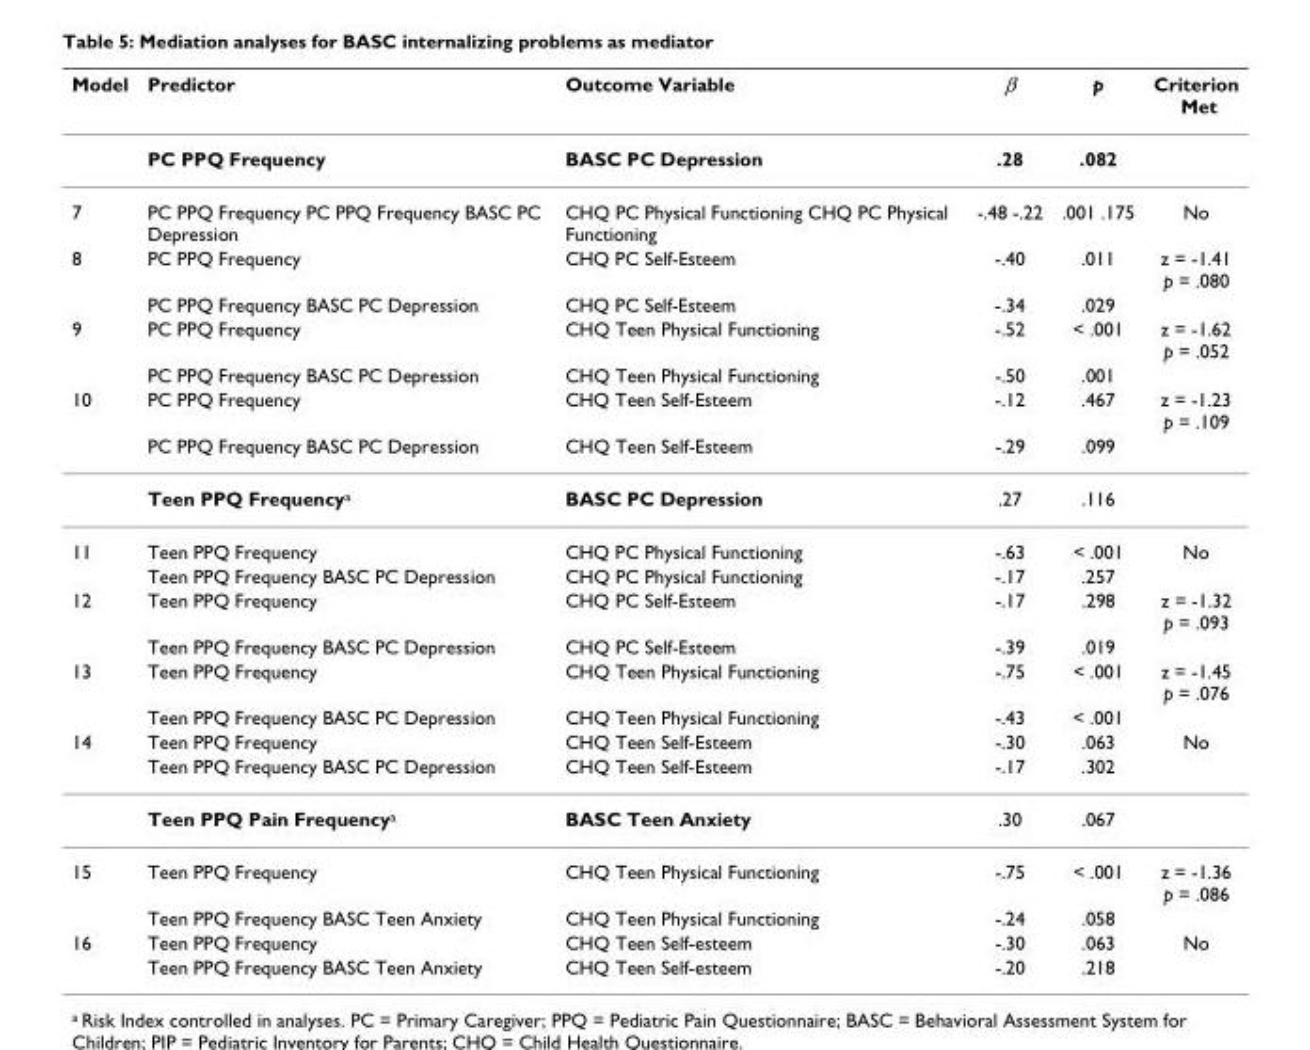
<table><thead><tr><td>Model</td><td>Predictor</td><td>Outcome Variable</td><td>β</td><td>p</td><td>Criterion Met</td></tr></thead><tbody><tr><td></td><td>PC PPQ Frequency</td><td>BASC PC Depression</td><td>.28</td><td>.082</td><td></td></tr><tr><td>7</td><td>PC PPQ Frequency PC PPQ Frequency BASC PC Depression</td><td>CHQ PC Physical Functioning CHQ PC Physical Functioning</td><td>-.48 -.22</td><td>.001 .175</td><td>No</td></tr><tr><td rowspan="2">8</td><td>PC PPQ Frequency</td><td>CHQ PC Self-Esteem</td><td>-.40</td><td>.011</td><td>z = -1.41 p = .080</td></tr><tr><td>PC PPQ Frequency BASC PC Depression</td><td>CHQ PC Self-Esteem</td><td>-.34</td><td>.029</td><td></td></tr><tr><td rowspan="2">9</td><td>PC PPQ Frequency</td><td>CHQ Teen Physical Functioning</td><td>-.52</td><td>&lt; .001</td><td>z = -1.62 p = .052</td></tr><tr><td>PC PPQ Frequency BASC PC Depression</td><td>CHQ Teen Physical Functioning</td><td>-.50</td><td>.001</td><td></td></tr><tr><td rowspan="3">10</td><td>PC PPQ Frequency</td><td>CHQ Teen Self-Esteem</td><td>-.12</td><td>.467</td><td>z = -1.23 p = .109</td></tr><tr><td>PC PPQ Frequency BASC PC Depression</td><td>CHQ Teen Self-Esteem</td><td>-.29</td><td>.099</td><td></td></tr><tr><td>Teen PPQ Frequency<sup>a</sup></td><td>BASC PC Depression</td><td>.27</td><td>.116</td><td></td></tr><tr><td rowspan="2">11</td><td>Teen PPQ Frequency</td><td>CHQ PC Physical Functioning</td><td>-.63</td><td>&lt; .001</td><td>No</td></tr><tr><td>Teen PPQ Frequency BASC PC Depression</td><td>CHQ PC Physical Functioning</td><td>-.17</td><td>.257</td><td></td></tr><tr><td rowspan="2">12</td><td>Teen PPQ Frequency</td><td>CHQ PC Self-Esteem</td><td>-.17</td><td>.298</td><td>z = -1.32 p = .093</td></tr><tr><td>Teen PPQ Frequency BASC PC Depression</td><td>CHQ PC Self-Esteem</td><td>-.39</td><td>.019</td><td></td></tr><tr><td rowspan="2">13</td><td>Teen PPQ Frequency</td><td>CHQ Teen Physical Functioning</td><td>-.75</td><td>&lt; .001</td><td>z = -1.45 p = .076</td></tr><tr><td>Teen PPQ Frequency BASC PC Depression</td><td>CHQ Teen Physical Functioning</td><td>-.43</td><td>&lt; .001</td><td></td></tr><tr><td rowspan="3">14</td><td>Teen PPQ Frequency</td><td>CHQ Teen Self-Esteem</td><td>-.30</td><td>.063</td><td>No</td></tr><tr><td>Teen PPQ Frequency BASC PC Depression</td><td>CHQ Teen Self-Esteem</td><td>-.17</td><td>.302</td><td></td></tr><tr><td>Teen PPQ Pain Frequency<sup>a</sup></td><td>BASC Teen Anxiety</td><td>.30</td><td>.067</td><td></td></tr><tr><td rowspan="2">15</td><td>Teen PPQ Frequency</td><td>CHQ Teen Physical Functioning</td><td>-.75</td><td>&lt; .001</td><td>z = -1.36 p = .086</td></tr><tr><td>Teen PPQ Frequency BASC Teen Anxiety</td><td>CHQ Teen Physical Functioning</td><td>-.24</td><td>.058</td><td></td></tr><tr><td rowspan="2">16</td><td>Teen PPQ Frequency</td><td>CHQ Teen Self-esteem</td><td>-.30</td><td>.063</td><td>No</td></tr><tr><td>Teen PPQ Frequency BASC Teen Anxiety</td><td>CHQ Teen Self-esteem</td><td>-.20</td><td>.218</td><td></td></tr></tbody></table>